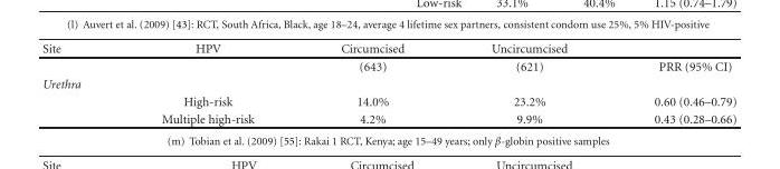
<table><thead><tr><td>Site</td><td>HPV</td><td>Circumcised</td><td>Uncircumcised</td><td></td></tr></thead><tbody><tr><td></td><td></td><td>(643)</td><td>(621)</td><td>PRR (95% CI)</td></tr><tr><td colspan="5">Urethra</td></tr><tr><td></td><td>High-risk</td><td>14.0%</td><td>23.2%</td><td>0.60 (0.46–0.79)</td></tr><tr><td></td><td>Multiple high-risk</td><td>4.2%</td><td>9.9%</td><td>0.43 (0.28–0.66)</td></tr></tbody></table>